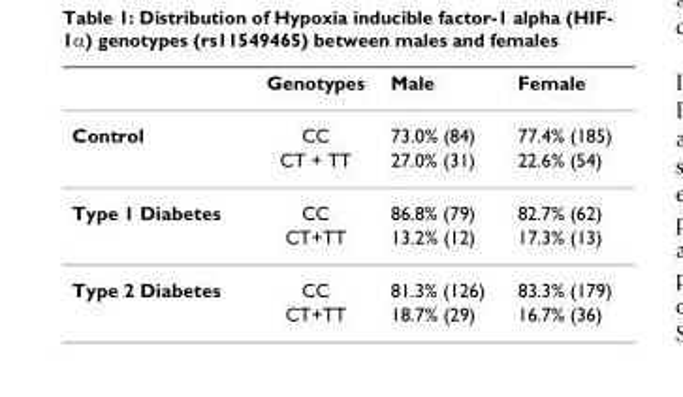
<table><thead><tr><td></td><td>Genotypes</td><td>Male</td><td>Female</td></tr></thead><tbody><tr><td rowspan="2">Control</td><td>CC</td><td>73.0% (84)</td><td>77.4% (185)</td></tr><tr><td>CT + TT</td><td>27.0% (31)</td><td>22.6% (54)</td></tr><tr><td rowspan="2">Type 1 Diabetes</td><td>CC</td><td>86.8% (79)</td><td>82.7% (62)</td></tr><tr><td>CT+TT</td><td>13.2% (12)</td><td>17.3% (13)</td></tr><tr><td rowspan="2">Type 2 Diabetes</td><td>CC</td><td>81.3% (126)</td><td>83.3% (179)</td></tr><tr><td>CT+TT</td><td>18.7% (29)</td><td>16.7% (36)</td></tr></tbody></table>